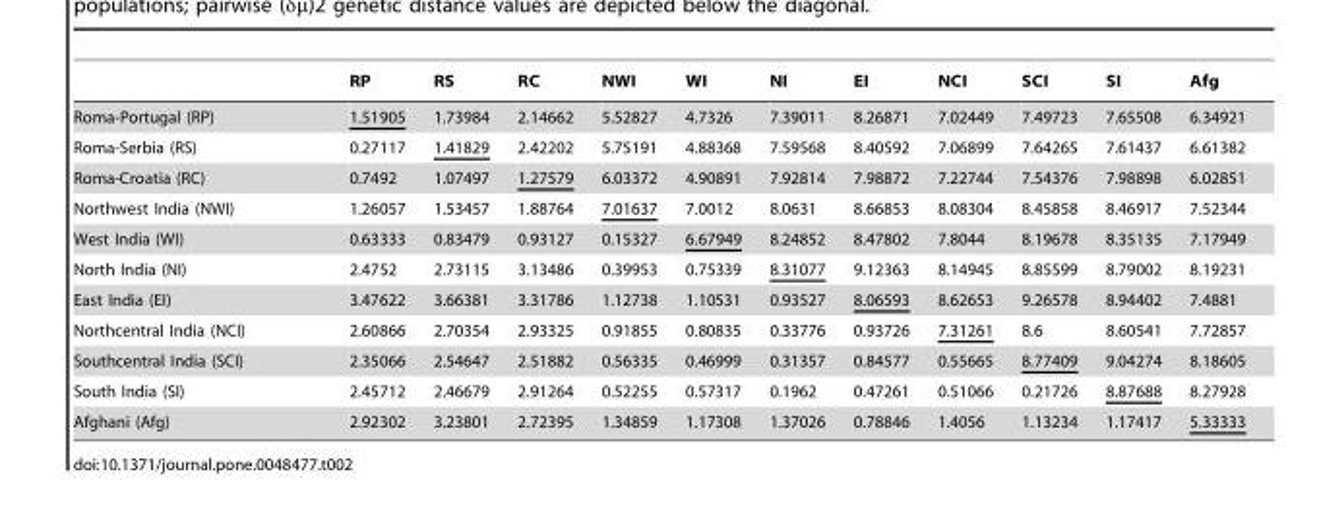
<table><thead><tr><td></td><td>RP</td><td>RS</td><td>RC</td><td>NWI</td><td>WI</td><td>NI</td><td>EI</td><td>NCI</td><td>SCI</td><td>SI</td><td>Afg</td></tr></thead><tbody><tr><td>Roma-Portugal (RP)</td><td>1.51905</td><td>1.73984</td><td>2.14662</td><td>5.52827</td><td>4.7326</td><td>7.39011</td><td>8.26871</td><td>7.02449</td><td>7.49723</td><td>7.65508</td><td>6.34921</td></tr><tr><td>Roma-Serbia (RS)</td><td>0.27117</td><td>1.41829</td><td>2.42202</td><td>5.75191</td><td>4.88368</td><td>7.59568</td><td>8.40592</td><td>7.06899</td><td>7.64265</td><td>7.61437</td><td>6.61382</td></tr><tr><td>Roma-Croatia (RC)</td><td>0.7492</td><td>1.07497</td><td>1.27579</td><td>6.03372</td><td>4.90891</td><td>7.92814</td><td>7.98872</td><td>7.22744</td><td>7.54376</td><td>7.98898</td><td>6.02851</td></tr><tr><td>Northwest India (NWI)</td><td>1.26057</td><td>1.53457</td><td>1.88764</td><td>7.01637</td><td>7.0012</td><td>8.0631</td><td>8.66853</td><td>8.08304</td><td>8.45858</td><td>8.46917</td><td>7.52344</td></tr><tr><td>West India (WI)</td><td>0.63333</td><td>0.83479</td><td>0.93127</td><td>0.15327</td><td>6.67949</td><td>8.24852</td><td>8.47802</td><td>7.8044</td><td>8.19678</td><td>8.35135</td><td>7.17949</td></tr><tr><td>North India (NI)</td><td>2.4752</td><td>2.73115</td><td>3.13486</td><td>0.39953</td><td>0.75339</td><td>8.31077</td><td>9.12363</td><td>8.14945</td><td>8.85599</td><td>8.79002</td><td>8.19231</td></tr><tr><td>East India (EI)</td><td>3.47622</td><td>3.66381</td><td>3.31786</td><td>1.12738</td><td>1.10531</td><td>0.93527</td><td>8.06593</td><td>8.62653</td><td>9.26578</td><td>8.94402</td><td>7.4881</td></tr><tr><td>Northcentral India (NCI)</td><td>2.60866</td><td>2.70354</td><td>2.93325</td><td>0.91855</td><td>0.80835</td><td>0.33776</td><td>0.93726</td><td>7.31261</td><td>8.6</td><td>8.60541</td><td>7.72857</td></tr><tr><td>Southcentral India (SCI)</td><td>2.35066</td><td>2.54647</td><td>2.51882</td><td>0.56335</td><td>0.46999</td><td>0.31357</td><td>0.84577</td><td>0.55665</td><td>8.77409</td><td>9.04274</td><td>8.18605</td></tr><tr><td>South India (SI)</td><td>2.45712</td><td>2.46679</td><td>2.91264</td><td>0.52255</td><td>0.57317</td><td>0.1962</td><td>0.47261</td><td>0.51066</td><td>0.21726</td><td>8.87688</td><td>8.27928</td></tr><tr><td>Afghani (Afg)</td><td>2.92302</td><td>3.23801</td><td>2.72395</td><td>1.34859</td><td>1.17308</td><td>1.37026</td><td>0.78846</td><td>1.4056</td><td>1.13234</td><td>1.17417</td><td>5.33333</td></tr></tbody></table>